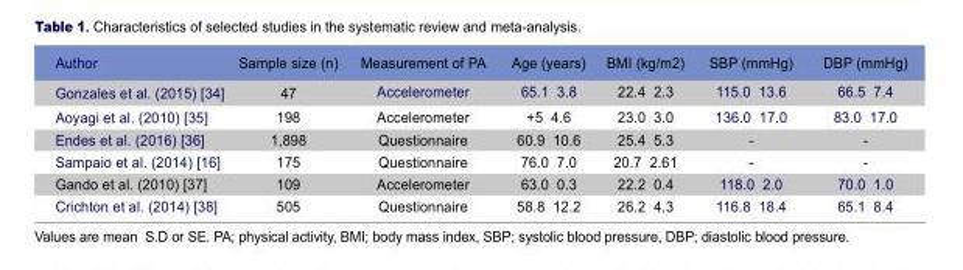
<table><thead><tr><td>Author</td><td>Sample size (n)</td><td>Measurement of PA</td><td>Age (years)</td><td>BMI (kg/m2)</td><td>SBP (mmHg)</td><td>DBP (mmHg)</td></tr></thead><tbody><tr><td>Gonzales et al. (2015) [34]</td><td>47</td><td>Accelerometer</td><td>65.1 3.8</td><td>22.4 2.3</td><td>115.0 13.6</td><td>66.5 7.4</td></tr><tr><td>Aoyagi et al. (2010) [35]</td><td>198</td><td>Accelerometer</td><td>+5 4.6</td><td>23.0 3.0</td><td>136.0 17.0</td><td>83.0 17.0</td></tr><tr><td>Endes et al. (2016) [36]</td><td>1,898</td><td>Questionnaire</td><td>60.9 10.6</td><td>25.4 5.3</td><td>-</td><td>-</td></tr><tr><td>Sampaio et al. (2014) [16]</td><td>175</td><td>Questionnaire</td><td>76.0 7.0</td><td>20.7 2.61</td><td>-</td><td>-</td></tr><tr><td>Gando et al. (2010) [37]</td><td>109</td><td>Accelerometer</td><td>63.0 0.3</td><td>22.2 0.4</td><td>118.0 2.0</td><td>70.0 1.0</td></tr><tr><td>Crichton et al. (2014) [38]</td><td>505</td><td>Questionnaire</td><td>58.8 12.2</td><td>26.2 4.3</td><td>116.8 18.4</td><td>65.1 8.4</td></tr></tbody></table>